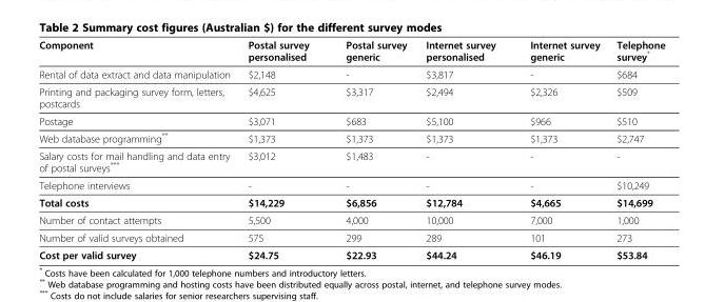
<table><thead><tr><td>Component</td><td>Postal survey personalised</td><td>Postal survey generic</td><td>Internet survey personalised</td><td>Internet survey generic</td><td>Telephone survey*</td></tr></thead><tbody><tr><td>Rental of data extract and data manipulation</td><td>$2,148</td><td>-</td><td>$3,817</td><td>-</td><td>$684</td></tr><tr><td>Printing and packaging survey form, letters, postcards</td><td>$4,625</td><td>$3,317</td><td>$2,494</td><td>$2,326</td><td>$509</td></tr><tr><td>Postage</td><td>$3,071</td><td>$683</td><td>$5,100</td><td>$966</td><td>$510</td></tr><tr><td>Web database programming**</td><td>$1,373</td><td>$1,373</td><td>$1,373</td><td>$1,373</td><td>$2,747</td></tr><tr><td>Salary costs for mail handling and data entry of postal surveys***</td><td>$3,012</td><td>$1,483</td><td>-</td><td>-</td><td>-</td></tr><tr><td>Telephone interviews</td><td>-</td><td>-</td><td>-</td><td>-</td><td>$10,249</td></tr><tr><td>Total costs</td><td>$14,229</td><td>$6,856</td><td>$12,784</td><td>$4,665</td><td>$14,699</td></tr><tr><td>Number of contact attempts</td><td>5,500</td><td>4,000</td><td>10,000</td><td>7,000</td><td>1,000</td></tr><tr><td>Number of valid surveys obtained</td><td>575</td><td>299</td><td>289</td><td>101</td><td>273</td></tr><tr><td>Cost per valid survey</td><td>$24.75</td><td>$22.93</td><td>$44.24</td><td>$46.19</td><td>$53.84</td></tr></tbody></table>